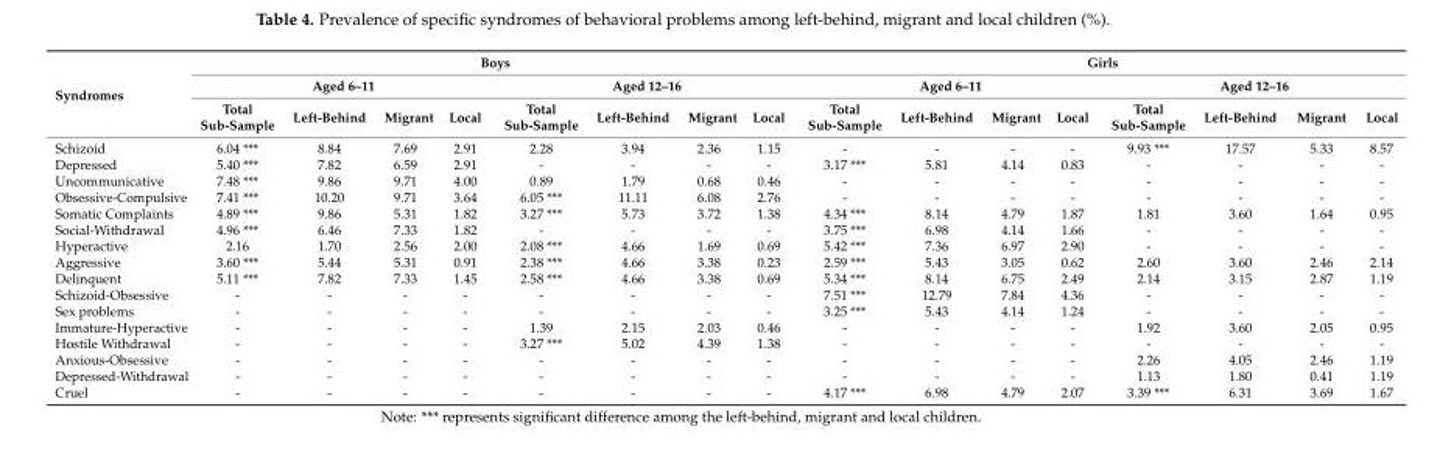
<table><thead><tr><td rowspan="3">Syndromes</td><td colspan="8">Boys</td><td colspan="8">Girls</td></tr><tr><td colspan="4">Aged 6–11</td><td colspan="4">Aged 12–16</td><td colspan="4">Aged 6–11</td><td colspan="4">Aged 12–16</td></tr><tr><td>Total Sub-Sample</td><td>Left-Behind</td><td>Migrant</td><td>Local</td><td>Total Sub-Sample</td><td>Left-Behind</td><td>Migrant</td><td>Local</td><td>Total Sub-Sample</td><td>Left-Behind</td><td>Migrant</td><td>Local</td><td>Total Sub-Sample</td><td>Left-Behind</td><td>Migrant</td><td>Local</td></tr></thead><tbody><tr><td>Schizoid</td><td>6.04 ***</td><td>8.84</td><td>7.69</td><td>2.91</td><td>2.28</td><td>3.94</td><td>2.36</td><td>1.15</td><td>-</td><td>-</td><td>-</td><td>-</td><td>9.93 ***</td><td>17.57</td><td>5.33</td><td>8.57</td></tr><tr><td>Depressed</td><td>5.40 ***</td><td>7.82</td><td>6.59</td><td>2.91</td><td>-</td><td>-</td><td>-</td><td>-</td><td>3.17 ***</td><td>5.81</td><td>4.14</td><td>0.83</td><td>-</td><td>-</td><td>-</td><td>-</td></tr><tr><td>Uncommunicative</td><td>7.48 ***</td><td>9.86</td><td>9.71</td><td>4.00</td><td>0.89</td><td>1.79</td><td>0.68</td><td>0.46</td><td>-</td><td>-</td><td>-</td><td>-</td><td>-</td><td>-</td><td>-</td><td>-</td></tr><tr><td>Obsessive-Compulsive</td><td>7.41 ***</td><td>10.20</td><td>9.71</td><td>3.64</td><td>6.05 ***</td><td>11.11</td><td>6.08</td><td>2.76</td><td>-</td><td>-</td><td>-</td><td>-</td><td>-</td><td>-</td><td>-</td><td>-</td></tr><tr><td>Somatic Complaints</td><td>4.89 ***</td><td>9.86</td><td>5.31</td><td>1.82</td><td>3.27 ***</td><td>5.73</td><td>3.72</td><td>1.38</td><td>4.34 ***</td><td>8.14</td><td>4.79</td><td>1.87</td><td>1.81</td><td>3.60</td><td>1.64</td><td>0.95</td></tr><tr><td>Social-Withdrawal</td><td>4.96 ***</td><td>6.46</td><td>7.33</td><td>1.82</td><td>-</td><td>-</td><td>-</td><td>-</td><td>3.75 ***</td><td>6.98</td><td>4.14</td><td>1.66</td><td>-</td><td>-</td><td>-</td><td>-</td></tr><tr><td>Hyperactive</td><td>2.16</td><td>1.70</td><td>2.56</td><td>2.00</td><td>2.08 ***</td><td>4.66</td><td>1.69</td><td>0.69</td><td>5.42 ***</td><td>7.36</td><td>6.97</td><td>2.90</td><td>-</td><td>-</td><td>-</td><td>-</td></tr><tr><td>Aggressive</td><td>3.60 ***</td><td>5.44</td><td>5.31</td><td>0.91</td><td>2.38 ***</td><td>4.66</td><td>3.38</td><td>0.23</td><td>2.59 ***</td><td>5.43</td><td>3.05</td><td>0.62</td><td>2.60</td><td>3.60</td><td>2.46</td><td>2.14</td></tr><tr><td>Delinquent</td><td>5.11 ***</td><td>7.82</td><td>7.33</td><td>1.45</td><td>2.58 ***</td><td>4.66</td><td>3.38</td><td>0.69</td><td>5.34 ***</td><td>8.14</td><td>6.75</td><td>2.49</td><td>2.14</td><td>3.15</td><td>2.87</td><td>1.19</td></tr><tr><td>Schizoid-Obsessive</td><td>-</td><td>-</td><td>-</td><td>-</td><td>-</td><td>-</td><td>-</td><td>-</td><td>7.51 ***</td><td>12.79</td><td>7.84</td><td>4.36</td><td>-</td><td>-</td><td>-</td><td>-</td></tr><tr><td>Sex problems</td><td>-</td><td>-</td><td>-</td><td>-</td><td>-</td><td>-</td><td>-</td><td>-</td><td>3.25 ***</td><td>5.43</td><td>4.14</td><td>1.24</td><td>-</td><td>-</td><td>-</td><td>-</td></tr><tr><td>Immature-Hyperactive</td><td>-</td><td>-</td><td>-</td><td>-</td><td>1.39</td><td>2.15</td><td>2.03</td><td>0.46</td><td>-</td><td>-</td><td>-</td><td>-</td><td>1.92</td><td>3.60</td><td>2.05</td><td>0.95</td></tr><tr><td>Hostile Withdrawal</td><td>-</td><td>-</td><td>-</td><td>-</td><td>3.27 ***</td><td>5.02</td><td>4.39</td><td>1.38</td><td>-</td><td>-</td><td>-</td><td>-</td><td>-</td><td>-</td><td>-</td><td>-</td></tr><tr><td>Anxious-Obsessive</td><td>-</td><td>-</td><td>-</td><td>-</td><td>-</td><td>-</td><td>-</td><td>-</td><td>-</td><td>-</td><td>-</td><td>-</td><td>2.26</td><td>4.05</td><td>2.46</td><td>1.19</td></tr><tr><td>Depressed-Withdrawal</td><td>-</td><td>-</td><td>-</td><td>-</td><td>-</td><td>-</td><td>-</td><td>-</td><td>-</td><td>-</td><td>-</td><td>-</td><td>1.13</td><td>1.80</td><td>0.41</td><td>1.19</td></tr><tr><td>Cruel</td><td>-</td><td>-</td><td>-</td><td>-</td><td>-</td><td>-</td><td>-</td><td>-</td><td>4.17 ***</td><td>6.98</td><td>4.79</td><td>2.07</td><td>3.39 ***</td><td>6.31</td><td>3.69</td><td>1.67</td></tr></tbody></table>